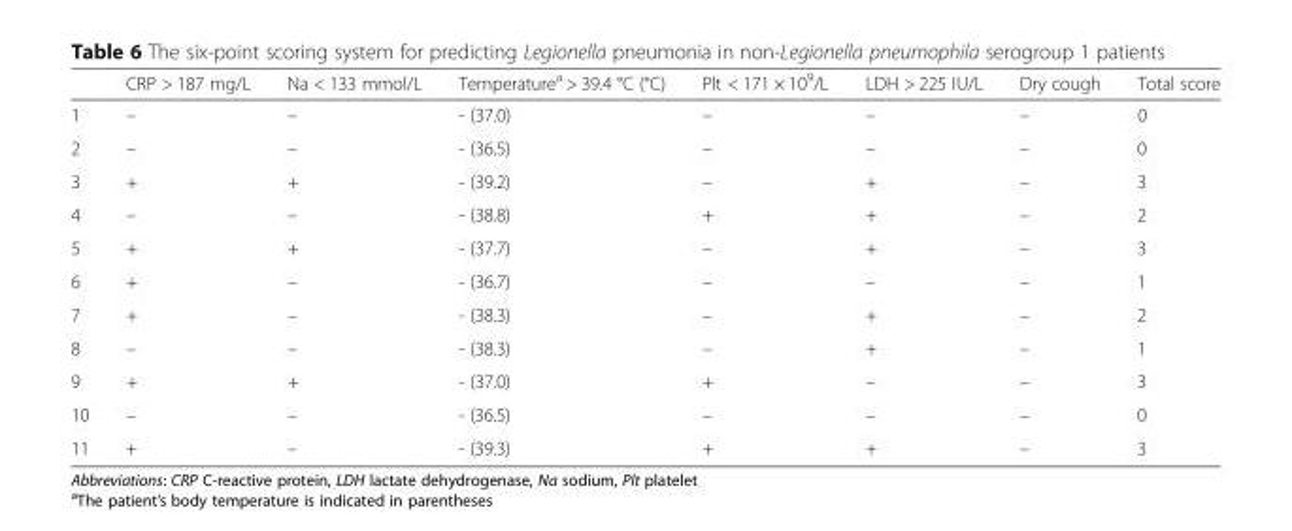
<table><thead><tr><td></td><td>CRP &gt; 187 mg/L</td><td>Na &lt; 133 mmol/L</td><td>Temperature<sup>a</sup> &gt; 39.4 °C (°C)</td><td>Plt &lt; 171 × 10<sup>9</sup>/L</td><td>LDH &gt; 225 IU/L</td><td>Dry cough</td><td>Total score</td></tr></thead><tbody><tr><td>1</td><td>–</td><td>–</td><td>- (37.0)</td><td>–</td><td>–</td><td>–</td><td>0</td></tr><tr><td>2</td><td>–</td><td>–</td><td>- (36.5)</td><td>–</td><td>–</td><td>–</td><td>0</td></tr><tr><td>3</td><td>+</td><td>+</td><td>- (39.2)</td><td>–</td><td>+</td><td>–</td><td>3</td></tr><tr><td>4</td><td>–</td><td>–</td><td>- (38.8)</td><td>+</td><td>+</td><td>–</td><td>2</td></tr><tr><td>5</td><td>+</td><td>+</td><td>- (37.7)</td><td>–</td><td>+</td><td>–</td><td>3</td></tr><tr><td>6</td><td>+</td><td>–</td><td>- (36.7)</td><td>–</td><td>–</td><td>–</td><td>1</td></tr><tr><td>7</td><td>+</td><td>–</td><td>- (38.3)</td><td>–</td><td>+</td><td>–</td><td>2</td></tr><tr><td>8</td><td>–</td><td>–</td><td>- (38.3)</td><td>–</td><td>+</td><td>–</td><td>1</td></tr><tr><td>9</td><td>+</td><td>+</td><td>- (37.0)</td><td>+</td><td>–</td><td>–</td><td>3</td></tr><tr><td>10</td><td>–</td><td>–</td><td>- (36.5)</td><td>–</td><td>–</td><td>–</td><td>0</td></tr><tr><td>11</td><td>+</td><td>–</td><td>- (39.3)</td><td>+</td><td>+</td><td>–</td><td>3</td></tr></tbody></table>